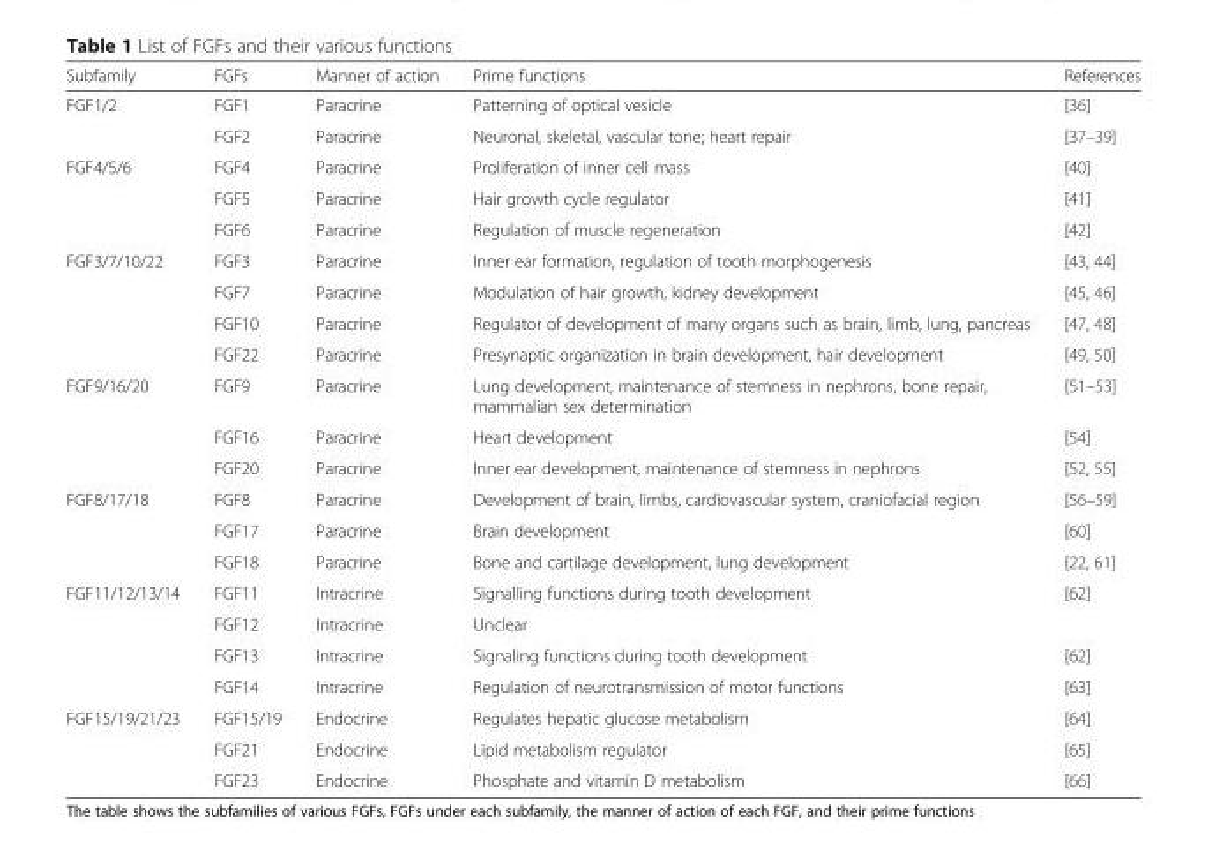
<table><thead><tr><td>Subfamily</td><td>FGFs</td><td>Manner of action</td><td>Prime functions</td><td>References</td></tr></thead><tbody><tr><td rowspan="2">FGF1/2</td><td>FGF1</td><td>Paracrine</td><td>Patterning of optical vesicle</td><td>[36]</td></tr><tr><td>FGF2</td><td>Paracrine</td><td>Neuronal, skeletal, vascular tone; heart repair</td><td>[37–39]</td></tr><tr><td rowspan="3">FGF4/5/6</td><td>FGF4</td><td>Paracrine</td><td>Proliferation of inner cell mass</td><td>[40]</td></tr><tr><td>FGF5</td><td>Paracrine</td><td>Hair growth cycle regulator</td><td>[41]</td></tr><tr><td>FGF6</td><td>Paracrine</td><td>Regulation of muscle regeneration</td><td>[42]</td></tr><tr><td rowspan="4">FGF3/7/10/22</td><td>FGF3</td><td>Paracrine</td><td>Inner ear formation, regulation of tooth morphogenesis</td><td>[43, 44]</td></tr><tr><td>FGF7</td><td>Paracrine</td><td>Modulation of hair growth, kidney development</td><td>[45, 46]</td></tr><tr><td>FGF10</td><td>Paracrine</td><td>Regulator of development of many organs such as brain, limb, lung, pancreas</td><td>[47, 48]</td></tr><tr><td>FGF22</td><td>Paracrine</td><td>Presynaptic organization in brain development, hair development</td><td>[49, 50]</td></tr><tr><td rowspan="3">FGF9/16/20</td><td>FGF9</td><td>Paracrine</td><td>Lung development, maintenance of stemness in nephrons, bone repair, mammalian sex determination</td><td>[51–53]</td></tr><tr><td>FGF16</td><td>Paracrine</td><td>Heart development</td><td>[54]</td></tr><tr><td>FGF20</td><td>Paracrine</td><td>Inner ear development, maintenance of stemness in nephrons</td><td>[52, 55]</td></tr><tr><td rowspan="3">FGF8/17/18</td><td>FGF8</td><td>Paracrine</td><td>Development of brain, limbs, cardiovascular system, craniofacial region</td><td>[56–59]</td></tr><tr><td>FGF17</td><td>Paracrine</td><td>Brain development</td><td>[60]</td></tr><tr><td>FGF18</td><td>Paracrine</td><td>Bone and cartilage development, lung development</td><td>[22, 61]</td></tr><tr><td rowspan="4">FGF11/12/13/14</td><td>FGF11</td><td>Intracrine</td><td>Signalling functions during tooth development</td><td>[62]</td></tr><tr><td>FGF12</td><td>Intracrine</td><td>Unclear</td><td></td></tr><tr><td>FGF13</td><td>Intracrine</td><td>Signaling functions during tooth development</td><td>[62]</td></tr><tr><td>FGF14</td><td>Intracrine</td><td>Regulation of neurotransmission of motor functions</td><td>[63]</td></tr><tr><td rowspan="3">FGF15/19/21/23</td><td>FGF15/19</td><td>Endocrine</td><td>Regulates hepatic glucose metabolism</td><td>[64]</td></tr><tr><td>FGF21</td><td>Endocrine</td><td>Lipid metabolism regulator</td><td>[65]</td></tr><tr><td>FGF23</td><td>Endocrine</td><td>Phosphate and vitamin D metabolism</td><td>[66]</td></tr></tbody></table>